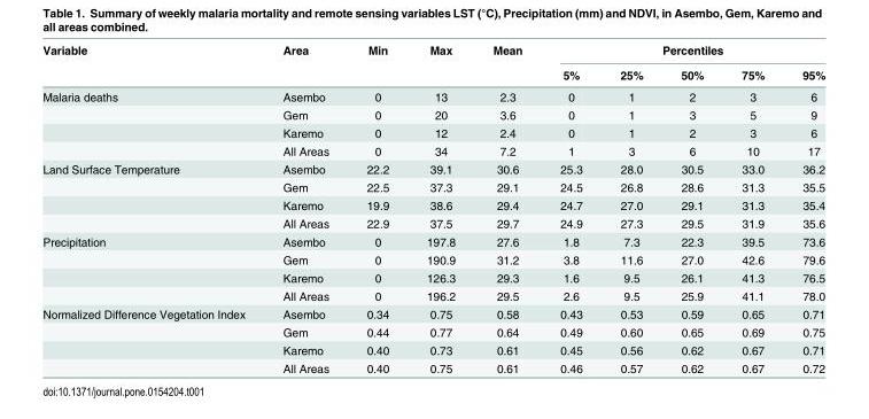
<table><thead><tr><td rowspan="2">Variable</td><td rowspan="2">Area</td><td rowspan="2">Min</td><td rowspan="2">Max</td><td rowspan="2">Mean</td><td colspan="5">Percentiles</td></tr><tr><td>5%</td><td>25%</td><td>50%</td><td>75%</td><td>95%</td></tr></thead><tbody><tr><td rowspan="4">Malaria deaths</td><td>Asembo</td><td>0</td><td>13</td><td>2.3</td><td>0</td><td>1</td><td>2</td><td>3</td><td>6</td></tr><tr><td>Gem</td><td>0</td><td>20</td><td>3.6</td><td>0</td><td>1</td><td>3</td><td>5</td><td>9</td></tr><tr><td>Karemo</td><td>0</td><td>12</td><td>2.4</td><td>0</td><td>1</td><td>2</td><td>3</td><td>6</td></tr><tr><td>All Areas</td><td>0</td><td>34</td><td>7.2</td><td>1</td><td>3</td><td>6</td><td>10</td><td>17</td></tr><tr><td rowspan="4">Land Surface Temperature</td><td>Asembo</td><td>22.2</td><td>39.1</td><td>30.6</td><td>25.3</td><td>28.0</td><td>30.5</td><td>33.0</td><td>36.2</td></tr><tr><td>Gem</td><td>22.5</td><td>37.3</td><td>29.1</td><td>24.5</td><td>26.8</td><td>28.6</td><td>31.3</td><td>35.5</td></tr><tr><td>Karemo</td><td>19.9</td><td>38.6</td><td>29.4</td><td>24.7</td><td>27.0</td><td>29.1</td><td>31.3</td><td>35.4</td></tr><tr><td>All Areas</td><td>22.9</td><td>37.5</td><td>29.7</td><td>24.9</td><td>27.3</td><td>29.5</td><td>31.9</td><td>35.6</td></tr><tr><td rowspan="4">Precipitation</td><td>Asembo</td><td>0</td><td>197.8</td><td>27.6</td><td>1.8</td><td>7.3</td><td>22.3</td><td>39.5</td><td>73.6</td></tr><tr><td>Gem</td><td>0</td><td>190.9</td><td>31.2</td><td>3.8</td><td>11.6</td><td>27.0</td><td>42.6</td><td>79.6</td></tr><tr><td>Karemo</td><td>0</td><td>126.3</td><td>29.3</td><td>1.6</td><td>9.5</td><td>26.1</td><td>41.3</td><td>76.5</td></tr><tr><td>All Areas</td><td>0</td><td>196.2</td><td>29.5</td><td>2.6</td><td>9.5</td><td>25.9</td><td>41.1</td><td>78.0</td></tr><tr><td rowspan="4">Normalized Difference Vegetation Index</td><td>Asembo</td><td>0.34</td><td>0.75</td><td>0.58</td><td>0.43</td><td>0.53</td><td>0.59</td><td>0.65</td><td>0.71</td></tr><tr><td>Gem</td><td>0.44</td><td>0.77</td><td>0.64</td><td>0.49</td><td>0.60</td><td>0.65</td><td>0.69</td><td>0.75</td></tr><tr><td>Karemo</td><td>0.40</td><td>0.73</td><td>0.61</td><td>0.45</td><td>0.56</td><td>0.62</td><td>0.67</td><td>0.71</td></tr><tr><td>All Areas</td><td>0.40</td><td>0.75</td><td>0.61</td><td>0.46</td><td>0.57</td><td>0.62</td><td>0.67</td><td>0.72</td></tr></tbody></table>